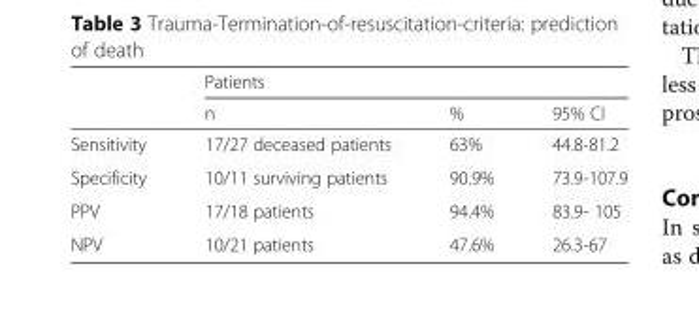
<table><thead><tr><td rowspan="2"></td><td colspan="3">Patients</td></tr><tr><td>n</td><td>%</td><td>95% CI</td></tr></thead><tbody><tr><td>Sensitivity</td><td>17/27 deceased patients</td><td>63%</td><td>44.8-81.2</td></tr><tr><td>Specificity</td><td>10/11 surviving patients</td><td>90.9%</td><td>73.9-107.9</td></tr><tr><td>PPV</td><td>17/18 patients</td><td>94.4%</td><td>83.9- 105</td></tr><tr><td>NPV</td><td>10/21 patients</td><td>47.6%</td><td>26.3-67</td></tr></tbody></table>